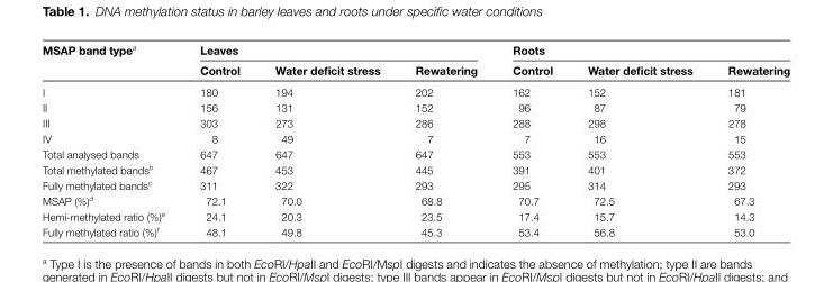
<table><thead><tr><td rowspan="2">MSAP band typea</td><td colspan="3">Leaves</td><td colspan="3">Roots</td></tr><tr><td>Control</td><td>Water deficit stress</td><td>Rewatering</td><td>Control</td><td>Water deficit stress</td><td>Rewatering</td></tr></thead><tbody><tr><td>I</td><td>180</td><td>194</td><td>202</td><td>162</td><td>152</td><td>181</td></tr><tr><td>II</td><td>156</td><td>131</td><td>152</td><td>96</td><td>87</td><td>79</td></tr><tr><td>III</td><td>303</td><td>273</td><td>286</td><td>288</td><td>298</td><td>278</td></tr><tr><td>IV</td><td>8</td><td>49</td><td>7</td><td>7</td><td>16</td><td>15</td></tr><tr><td>Total analysed bands</td><td>647</td><td>647</td><td>647</td><td>553</td><td>553</td><td>553</td></tr><tr><td>Total methylated bands<sup>b</sup></td><td>467</td><td>453</td><td>445</td><td>391</td><td>401</td><td>372</td></tr><tr><td>Fully methylated bands<sup>c</sup></td><td>311</td><td>322</td><td>293</td><td>295</td><td>314</td><td>293</td></tr><tr><td>MSAP (%)<sup>d</sup></td><td>72.1</td><td>70.0</td><td>68.8</td><td>70.7</td><td>72.5</td><td>67.3</td></tr><tr><td>Hemi-methylated ratio (%)<sup>e</sup></td><td>24.1</td><td>20.3</td><td>23.5</td><td>17.4</td><td>15.7</td><td>14.3</td></tr><tr><td>Fully methylated ratio (%)<sup>f</sup></td><td>48.1</td><td>49.8</td><td>45.3</td><td>53.4</td><td>56.8</td><td>53.0</td></tr></tbody></table>